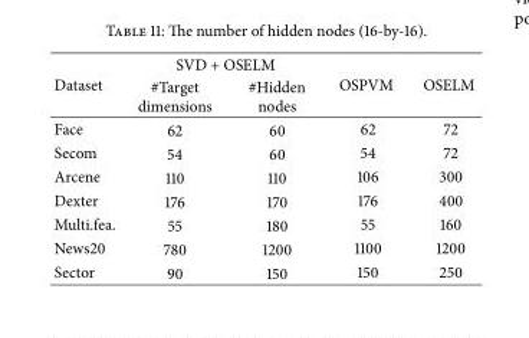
<table><thead><tr><td rowspan="2">Dataset</td><td colspan="2">SVD + OSELM</td><td rowspan="2">OSPVM</td><td rowspan="2">OSELM</td></tr><tr><td>#Target dimensions</td><td>#Hidden nodes</td></tr></thead><tbody><tr><td>Face</td><td>62</td><td>60</td><td>62</td><td>72</td></tr><tr><td>Secom</td><td>54</td><td>60</td><td>54</td><td>72</td></tr><tr><td>Arcene</td><td>110</td><td>110</td><td>106</td><td>300</td></tr><tr><td>Dexter</td><td>176</td><td>170</td><td>176</td><td>400</td></tr><tr><td>Multi.fea.</td><td>55</td><td>180</td><td>55</td><td>160</td></tr><tr><td>News20</td><td>780</td><td>1200</td><td>1100</td><td>1200</td></tr><tr><td>Sector</td><td>90</td><td>150</td><td>150</td><td>250</td></tr></tbody></table>